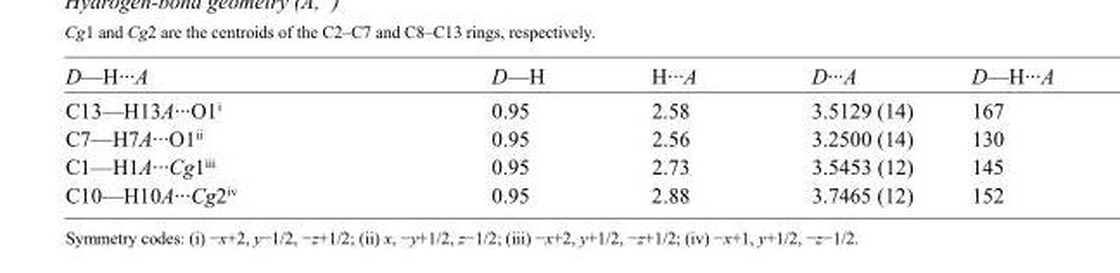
<table><tbody><tr><td>D—H···A</td><td>D—H</td><td>H···A</td><td>D···A</td><td>D—H···A</td></tr><tr><td>C13—H13A···O1<sup>i</sup></td><td>0.95</td><td>2.58</td><td>3.5129 (14)</td><td>167</td></tr><tr><td>C7—H7A···O1<sup>ii</sup></td><td>0.95</td><td>2.56</td><td>3.2500 (14)</td><td>130</td></tr><tr><td>C1—H1A···Cg1<sup>iii</sup></td><td>0.95</td><td>2.73</td><td>3.5453 (12)</td><td>145</td></tr><tr><td>C10—H10A···Cg2<sup>iv</sup></td><td>0.95</td><td>2.88</td><td>3.7465 (12)</td><td>152</td></tr></tbody></table>